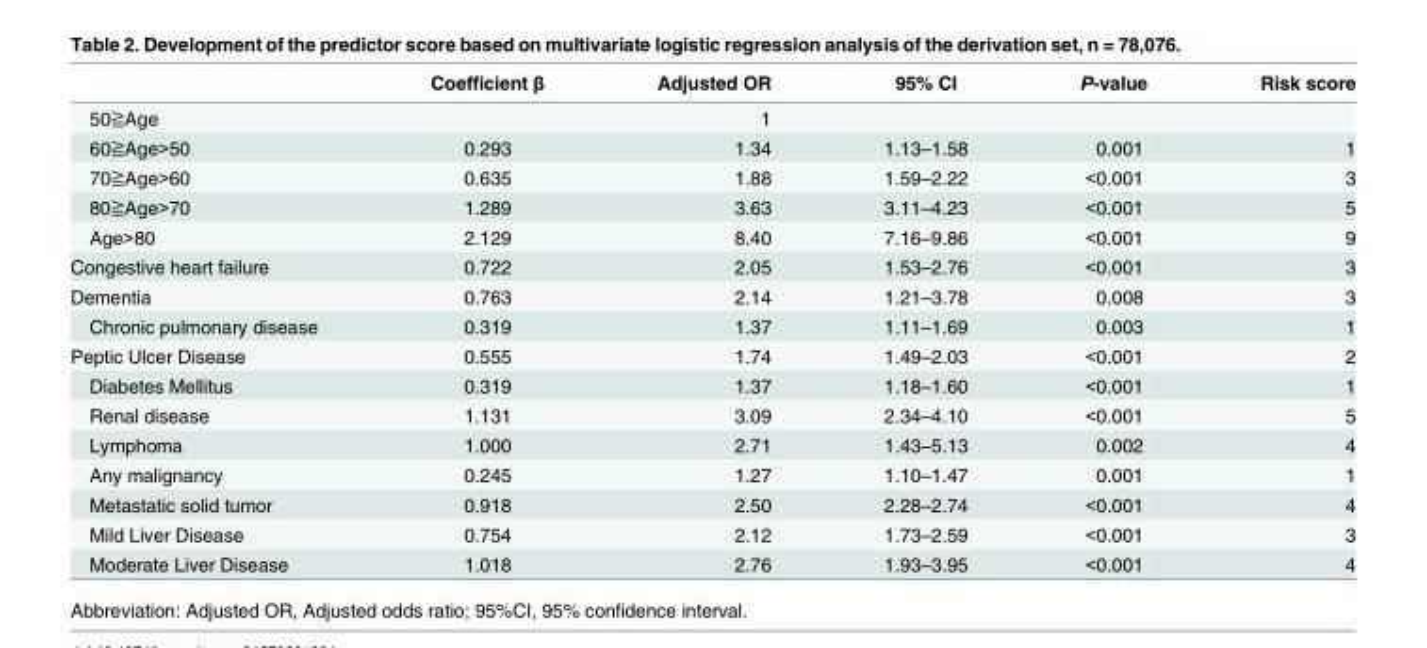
<table><thead><tr><td></td><td>Coefficient β</td><td>Adjusted OR</td><td>95% CI</td><td>P-value</td><td>Risk score</td></tr></thead><tbody><tr><td>50≧Age</td><td></td><td>1</td><td></td><td></td><td></td></tr><tr><td>60≧Age&gt;50</td><td>0.293</td><td>1.34</td><td>1.13–1.58</td><td>0.001</td><td>1</td></tr><tr><td>70≧Age&gt;60</td><td>0.635</td><td>1.88</td><td>1.59–2.22</td><td>&lt;0.001</td><td>3</td></tr><tr><td>80≧Age&gt;70</td><td>1.289</td><td>3.63</td><td>3.11–4.23</td><td>&lt;0.001</td><td>5</td></tr><tr><td>Age&gt;80</td><td>2.129</td><td>8.40</td><td>7.16–9.86</td><td>&lt;0.001</td><td>9</td></tr><tr><td>Congestive heart failure</td><td>0.722</td><td>2.05</td><td>1.53–2.76</td><td>&lt;0.001</td><td>3</td></tr><tr><td>Dementia</td><td>0.763</td><td>2.14</td><td>1.21–3.78</td><td>0.008</td><td>3</td></tr><tr><td>Chronic pulmonary disease</td><td>0.319</td><td>1.37</td><td>1.11–1.69</td><td>0.003</td><td>1</td></tr><tr><td>Peptic Ulcer Disease</td><td>0.555</td><td>1.74</td><td>1.49–2.03</td><td>&lt;0.001</td><td>2</td></tr><tr><td>Diabetes Mellitus</td><td>0.319</td><td>1.37</td><td>1.18–1.60</td><td>&lt;0.001</td><td>1</td></tr><tr><td>Renal disease</td><td>1.131</td><td>3.09</td><td>2.34–4.10</td><td>&lt;0.001</td><td>5</td></tr><tr><td>Lymphoma</td><td>1.000</td><td>2.71</td><td>1.43–5.13</td><td>0.002</td><td>4</td></tr><tr><td>Any malignancy</td><td>0.245</td><td>1.27</td><td>1.10–1.47</td><td>0.001</td><td>1</td></tr><tr><td>Metastatic solid tumor</td><td>0.918</td><td>2.50</td><td>2.28–2.74</td><td>&lt;0.001</td><td>4</td></tr><tr><td>Mild Liver Disease</td><td>0.754</td><td>2.12</td><td>1.73–2.59</td><td>&lt;0.001</td><td>3</td></tr><tr><td>Moderate Liver Disease</td><td>1.018</td><td>2.76</td><td>1.93–3.95</td><td>&lt;0.001</td><td>4</td></tr></tbody></table>